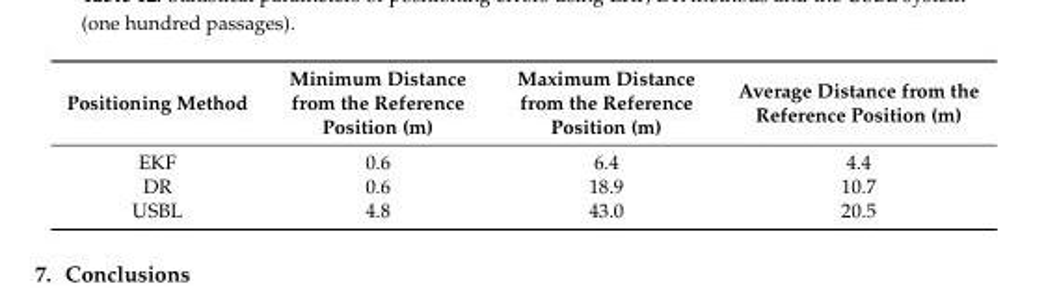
<table><thead><tr><td>Positioning Method</td><td>Minimum Distance from the Reference Position (m)</td><td>Maximum Distance from the Reference Position (m)</td><td>Average Distance from the Reference Position (m)</td></tr></thead><tbody><tr><td>EKF</td><td>0.6</td><td>6.4</td><td>4.4</td></tr><tr><td>DR</td><td>0.6</td><td>18.9</td><td>10.7</td></tr><tr><td>USBL</td><td>4.8</td><td>43.0</td><td>20.5</td></tr></tbody></table>